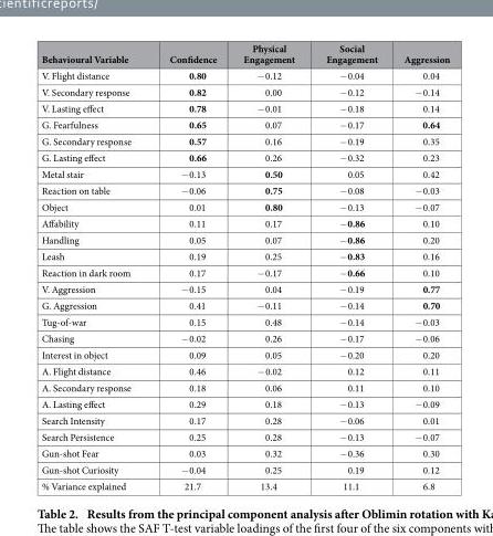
<table><thead><tr><td>Behavioural Variable</td><td>Confidence</td><td>Physical Engagement</td><td>Social Engagement</td><td>Aggression</td></tr></thead><tbody><tr><td>V. Flight distance</td><td>0.80</td><td>− 0.12</td><td>− 0.04</td><td>0.04</td></tr><tr><td>V. Secondary response</td><td>0.82</td><td>0.00</td><td>− 0.12</td><td>− 0.14</td></tr><tr><td>V. Lasting effect</td><td>0.78</td><td>− 0.01</td><td>− 0.18</td><td>0.14</td></tr><tr><td>G. Fearfulness</td><td>0.65</td><td>0.07</td><td>− 0.17</td><td>0.64</td></tr><tr><td>G. Secondary response</td><td>0.57</td><td>0.16</td><td>− 0.19</td><td>0.35</td></tr><tr><td>G. Lasting effect</td><td>0.66</td><td>0.26</td><td>− 0.32</td><td>0.23</td></tr><tr><td>Metal stair</td><td>− 0.13</td><td>0.50</td><td>0.05</td><td>0.42</td></tr><tr><td>Reaction on table</td><td>− 0.06</td><td>0.75</td><td>− 0.08</td><td>− 0.03</td></tr><tr><td>Object</td><td>0.01</td><td>0.80</td><td>− 0.13</td><td>− 0.07</td></tr><tr><td>Affability</td><td>0.11</td><td>0.17</td><td>− 0.86</td><td>0.10</td></tr><tr><td>Handling</td><td>0.05</td><td>0.07</td><td>− 0.86</td><td>0.20</td></tr><tr><td>Leash</td><td>0.19</td><td>0.25</td><td>− 0.83</td><td>0.16</td></tr><tr><td>Reaction in dark room</td><td>0.17</td><td>− 0.17</td><td>− 0.66</td><td>0.10</td></tr><tr><td>V. Aggression</td><td>− 0.15</td><td>0.04</td><td>− 0.19</td><td>0.77</td></tr><tr><td>G. Aggression</td><td>0.41</td><td>− 0.11</td><td>− 0.14</td><td>0.70</td></tr><tr><td>Tug-of-war</td><td>0.15</td><td>0.48</td><td>− 0.14</td><td>− 0.03</td></tr><tr><td>Chasing</td><td>− 0.02</td><td>0.26</td><td>− 0.17</td><td>− 0.06</td></tr><tr><td>Interest in object</td><td>0.09</td><td>0.05</td><td>− 0.20</td><td>0.20</td></tr><tr><td>A. Flight distance</td><td>0.46</td><td>− 0.02</td><td>0.12</td><td>0.11</td></tr><tr><td>A. Secondary response</td><td>0.18</td><td>0.06</td><td>0.11</td><td>0.10</td></tr><tr><td>A. Lasting effect</td><td>0.29</td><td>0.18</td><td>− 0.13</td><td>− 0.09</td></tr><tr><td>Search Intensity</td><td>0.17</td><td>0.28</td><td>− 0.06</td><td>0.01</td></tr><tr><td>Search Persistence</td><td>0.25</td><td>0.28</td><td>− 0.13</td><td>− 0.07</td></tr><tr><td>Gun-shot Fear</td><td>0.03</td><td>0.32</td><td>− 0.36</td><td>0.30</td></tr><tr><td>Gun-shot Curiosity</td><td>− 0.04</td><td>0.25</td><td>0.19</td><td>0.12</td></tr><tr><td>% Variance explained</td><td>21.7</td><td>13.4</td><td>11.1</td><td>6.8</td></tr></tbody></table>